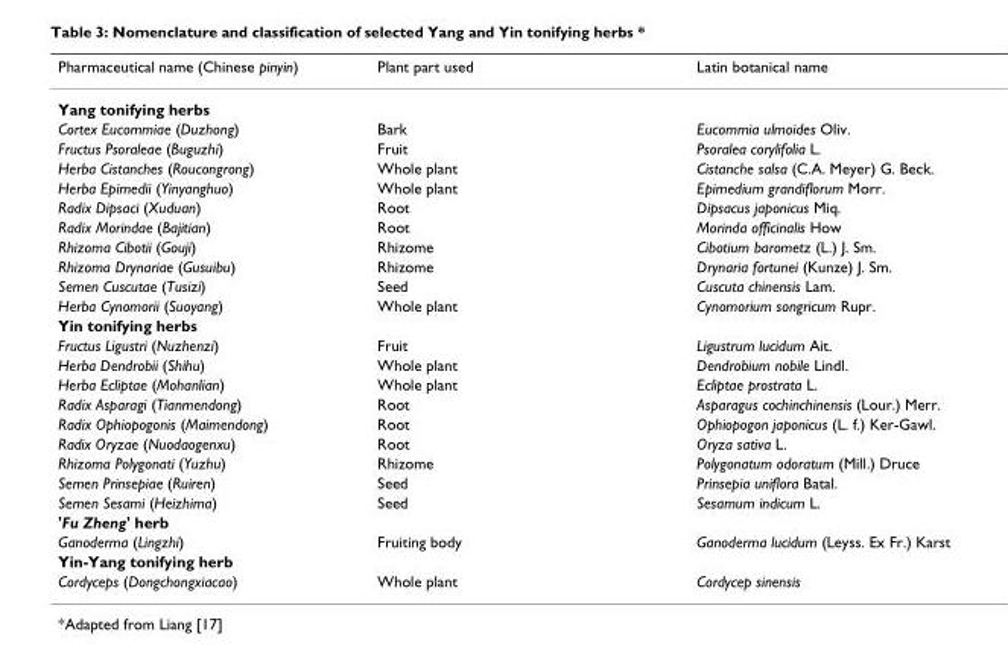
<table><thead><tr><td>Pharmaceutical name (Chinese pinyin)</td><td>Plant part used</td><td>Latin botanical name</td></tr></thead><tbody><tr><td colspan="3">Yang tonifying herbs</td></tr><tr><td>Cortex Eucommiae (Duzhong)</td><td>Bark</td><td>Eucommia ulmoides Oliv.</td></tr><tr><td>Fructus Psoraleae (Buguzhi)</td><td>Fruit</td><td>Psoralea corylifolia L.</td></tr><tr><td>Herba Cistanches (Roucongrong)</td><td>Whole plant</td><td>Cistanche salsa (C.A. Meyer) G. Beck.</td></tr><tr><td>Herba Epimedii (Yinyanghuo)</td><td>Whole plant</td><td>Epimedium grandiflorum Morr.</td></tr><tr><td>Radix Dipsaci (Xuduan)</td><td>Root</td><td>Dipsacus japonicus Miq.</td></tr><tr><td>Radix Morindae (Bajitian)</td><td>Root</td><td>Morinda officinalis How</td></tr><tr><td>Rhizoma Cibotii (Gouji)</td><td>Rhizome</td><td>Cibotium barometz (L.) J. Sm.</td></tr><tr><td>Rhizoma Drynariae (Gusuibu)</td><td>Rhizome</td><td>Drynaria fortunei (Kunze) J. Sm.</td></tr><tr><td>Semen Cuscutae (Tusizi)</td><td>Seed</td><td>Cuscuta chinensis Lam.</td></tr><tr><td>Herba Cynomorii (Suoyang)</td><td>Whole plant</td><td>Cynomorium songricum Rupr.</td></tr><tr><td colspan="3">Yin tonifying herbs</td></tr><tr><td>Fructus Ligustri (Nuzhenzi)</td><td>Fruit</td><td>Ligustrum lucidum Ait.</td></tr><tr><td>Herba Dendrobii (Shihu)</td><td>Whole plant</td><td>Dendrobium nobile Lindl.</td></tr><tr><td>Herba Ecliptae (Mohanlian)</td><td>Whole plant</td><td>Ecliptae prostrata L.</td></tr><tr><td>Radix Asparagi (Tianmendong)</td><td>Root</td><td>Asparagus cochinchinensis (Lour.) Merr.</td></tr><tr><td>Radix Ophiopogonis (Maimendong)</td><td>Root</td><td>Ophiopogon japonicus (L. f.) Ker-Gawl.</td></tr><tr><td>Radix Oryzae (Nuodaogenxu)</td><td>Root</td><td>Oryza sativa L.</td></tr><tr><td>Rhizoma Polygonati (Yuzhu)</td><td>Rhizome</td><td>Polygonatum odoratum (Mill.) Druce</td></tr><tr><td>Semen Prinsepiae (Ruiren)</td><td>Seed</td><td>Prinsepia uniflora Batal.</td></tr><tr><td>Semen Sesami (Heizhima)</td><td>Seed</td><td>Sesamum indicum L.</td></tr><tr><td colspan="3">&#x27;Fu Zheng&#x27; herb</td></tr><tr><td>Ganoderma (Lingzhi)</td><td>Fruiting body</td><td>Ganoderma lucidum (Leyss. Ex Fr.) Karst</td></tr><tr><td colspan="3">Yin-Yang tonifying herb</td></tr><tr><td>Cordyceps (Dongchongxiacao)</td><td>Whole plant</td><td>Cordycep sinensis</td></tr></tbody></table>